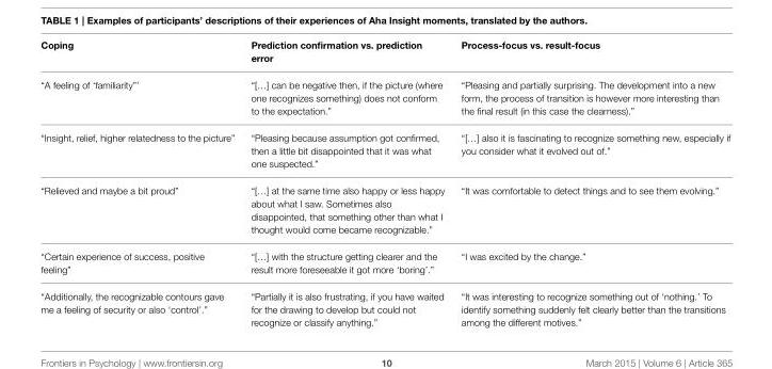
<table><thead><tr><td>Coping</td><td>Prediction confirmation vs. prediction error</td><td>Process-focus vs. result-focus</td></tr></thead><tbody><tr><td>“A feeling of ‘familiarity”’</td><td>“[…] can be negative then, if the picture (where one recognizes something) does not conform to the expectation.”</td><td>“Pleasing and partially surprising. The development into a new form, the process of transition is however more interesting than the final result (in this case the clearness).”</td></tr><tr><td>“Insight, relief, higher relatedness to the picture”</td><td>“Pleasing because assumption got confirmed, then a little bit disappointed that it was what one suspected.”</td><td>“[…] also it is fascinating to recognize something new, especially if you consider what it evolved out of.”</td></tr><tr><td>“Relieved and maybe a bit proud”</td><td>“[…] at the same time also happy or less happy about what I saw. Sometimes also disappointed, that something other than what I thought would come became recognizable.”</td><td>“It was comfortable to detect things and to see them evolving.”</td></tr><tr><td>“Certain experience of success, positive feeling”</td><td>“[…] with the structure getting clearer and the result more foreseeable it got more ‘boring’.”</td><td>“I was excited by the change.”</td></tr><tr><td>“Additionally, the recognizable contours gave me a feeling of security or also ‘control’.”</td><td>“Partially it is also frustrating, if you have waited for the drawing to develop but could not recognize or classify anything.”</td><td>“It was interesting to recognize something out of ‘nothing.’ To identify something suddenly felt clearly better than the transitions among the different motives.”</td></tr></tbody></table>